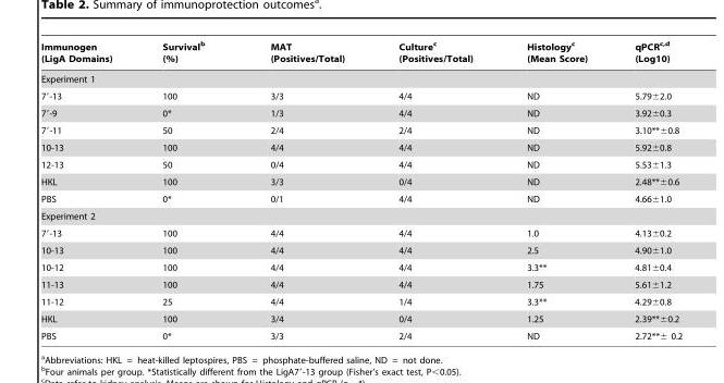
<table><thead><tr><td>Immunogen (LigA Domains)</td><td>Survival<sup>b</sup> (%)</td><td>MAT (Positives/Total)</td><td>Culture<sup>c</sup> (Positives/Total)</td><td>Histology<sup>c</sup> (Mean Score)</td><td>qPCRc,d (Log10)</td></tr></thead><tbody><tr><td colspan="6">Experiment 1</td></tr><tr><td>7′-13</td><td>100</td><td>3/3</td><td>4/4</td><td>ND</td><td>5.79±2.0</td></tr><tr><td>7′-9</td><td>0*</td><td>1/3</td><td>4/4</td><td>ND</td><td>3.92±0.3</td></tr><tr><td>7′-11</td><td>50</td><td>2/4</td><td>2/4</td><td>ND</td><td>3.10**±0.8</td></tr><tr><td>10-13</td><td>100</td><td>4/4</td><td>4/4</td><td>ND</td><td>5.92±0.8</td></tr><tr><td>12-13</td><td>50</td><td>0/4</td><td>4/4</td><td>ND</td><td>5.53±1.3</td></tr><tr><td>HKL</td><td>100</td><td>3/3</td><td>0/4</td><td>ND</td><td>2.48**±0.6</td></tr><tr><td>PBS</td><td>0*</td><td>0/1</td><td>4/4</td><td>ND</td><td>4.66±1.0</td></tr><tr><td colspan="6">Experiment 2</td></tr><tr><td>7′-13</td><td>100</td><td>4/4</td><td>4/4</td><td>1.0</td><td>4.13±0.2</td></tr><tr><td>10-13</td><td>100</td><td>4/4</td><td>4/4</td><td>2.5</td><td>4.90±1.0</td></tr><tr><td>10-12</td><td>100</td><td>4/4</td><td>4/4</td><td>3.3**</td><td>4.81±0.4</td></tr><tr><td>11-13</td><td>100</td><td>4/4</td><td>4/4</td><td>1.75</td><td>5.61±1.2</td></tr><tr><td>11-12</td><td>25</td><td>4/4</td><td>1/4</td><td>3.3**</td><td>4.29±0.8</td></tr><tr><td>HKL</td><td>100</td><td>3/4</td><td>0/4</td><td>1.25</td><td>2.39**±0.2</td></tr><tr><td>PBS</td><td>0*</td><td>3/3</td><td>2/4</td><td>ND</td><td>2.72**± 0.2</td></tr></tbody></table>